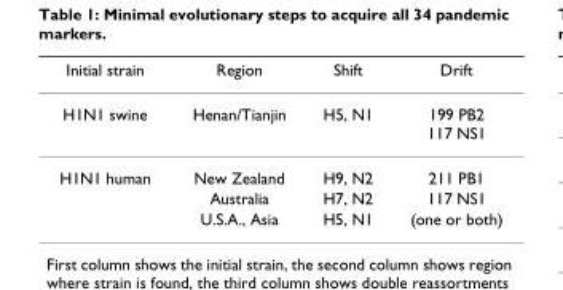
<table><thead><tr><td>Initial strain</td><td>Region</td><td>Shift</td><td>Drift</td></tr></thead><tbody><tr><td>H1N1 swine</td><td>Henan/Tianjin</td><td>H5, N1</td><td>199 PB2 117 NS1</td></tr><tr><td rowspan="3">H1N1 human</td><td>New Zealand</td><td>H9, N2</td><td>211 PB1</td></tr><tr><td>Australia</td><td>H7, N2</td><td>117 NS1</td></tr><tr><td>U.S.A., Asia</td><td>H5, N1</td><td>(one or both)</td></tr></tbody></table>